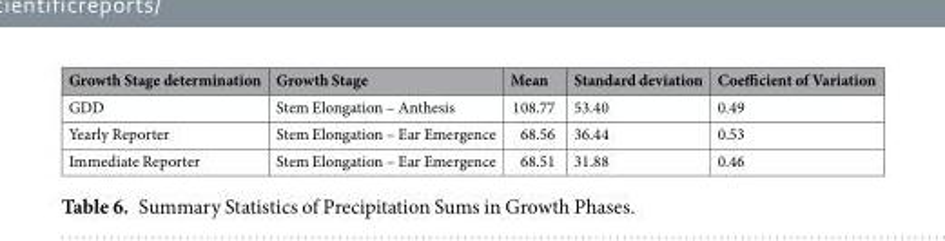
<table><thead><tr><td>Growth Stage determination</td><td>Growth Stage</td><td>Mean</td><td>Standard deviation</td><td>Coefficient of Variation</td></tr></thead><tbody><tr><td>GDD</td><td>Stem Elongation – Anthesis</td><td>108.77</td><td>53.40</td><td>0.49</td></tr><tr><td>Yearly Reporter</td><td>Stem Elongation – Ear Emergence</td><td>68.56</td><td>36.44</td><td>0.53</td></tr><tr><td>Immediate Reporter</td><td>Stem Elongation – Ear Emergence</td><td>68.51</td><td>31.88</td><td>0.46</td></tr></tbody></table>